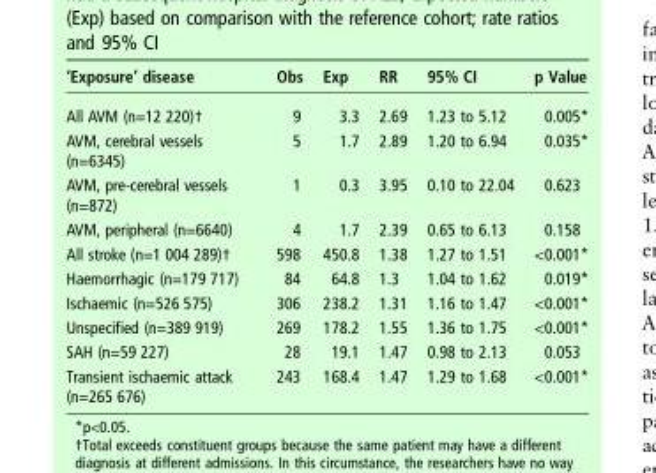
<table><thead><tr><td>‘Exposure’ disease</td><td>Obs</td><td>Exp</td><td>RR</td><td>95% CI</td><td>p Value</td></tr></thead><tbody><tr><td>All AVM (n=12 220)†</td><td>9</td><td>3.3</td><td>2.69</td><td>1.23 to 5.12</td><td>0.005*</td></tr><tr><td>AVM, cerebral vessels (n=6345)</td><td>5</td><td>1.7</td><td>2.89</td><td>1.20 to 6.94</td><td>0.035*</td></tr><tr><td>AVM, pre-cerebral vessels (n=872)</td><td>1</td><td>0.3</td><td>3.95</td><td>0.10 to 22.04</td><td>0.623</td></tr><tr><td>AVM, peripheral (n=6640)</td><td>4</td><td>1.7</td><td>2.39</td><td>0.65 to 6.13</td><td>0.158</td></tr><tr><td>All stroke (n=1 004 289)†</td><td>598</td><td>450.8</td><td>1.38</td><td>1.27 to 1.51</td><td>&lt;0.001*</td></tr><tr><td>Haemorrhagic (n=179 717)</td><td>84</td><td>64.8</td><td>1.3</td><td>1.04 to 1.62</td><td>0.019*</td></tr><tr><td>Ischaemic (n=526 575)</td><td>306</td><td>238.2</td><td>1.31</td><td>1.16 to 1.47</td><td>&lt;0.001*</td></tr><tr><td>Unspecified (n=389 919)</td><td>269</td><td>178.2</td><td>1.55</td><td>1.36 to 1.75</td><td>&lt;0.001*</td></tr><tr><td>SAH (n=59 227)</td><td>28</td><td>19.1</td><td>1.47</td><td>0.98 to 2.13</td><td>0.053</td></tr><tr><td>Transient ischaemic attack (n=265 676)</td><td>243</td><td>168.4</td><td>1.47</td><td>1.29 to 1.68</td><td>&lt;0.001*</td></tr></tbody></table>